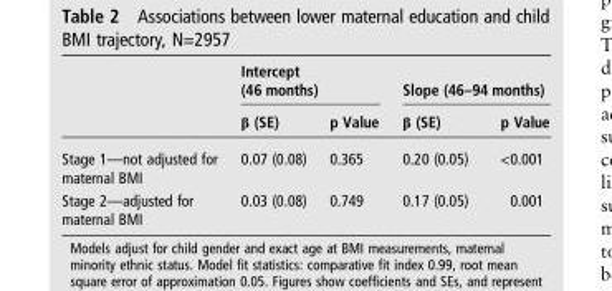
<table><thead><tr><td rowspan="2"></td><td colspan="2">Intercept (46 months)</td><td colspan="2">Slope (46–94 months)</td></tr><tr><td>β (SE)</td><td>p Value</td><td>β (SE)</td><td>p Value</td></tr></thead><tbody><tr><td>Stage 1—not adjusted for maternal BMI</td><td>0.07 (0.08)</td><td>0.365</td><td>0.20 (0.05)</td><td>&lt;0.001</td></tr><tr><td>Stage 2—adjusted for maternal BMI</td><td>0.03 (0.08)</td><td>0.749</td><td>0.17 (0.05)</td><td>0.001</td></tr></tbody></table>